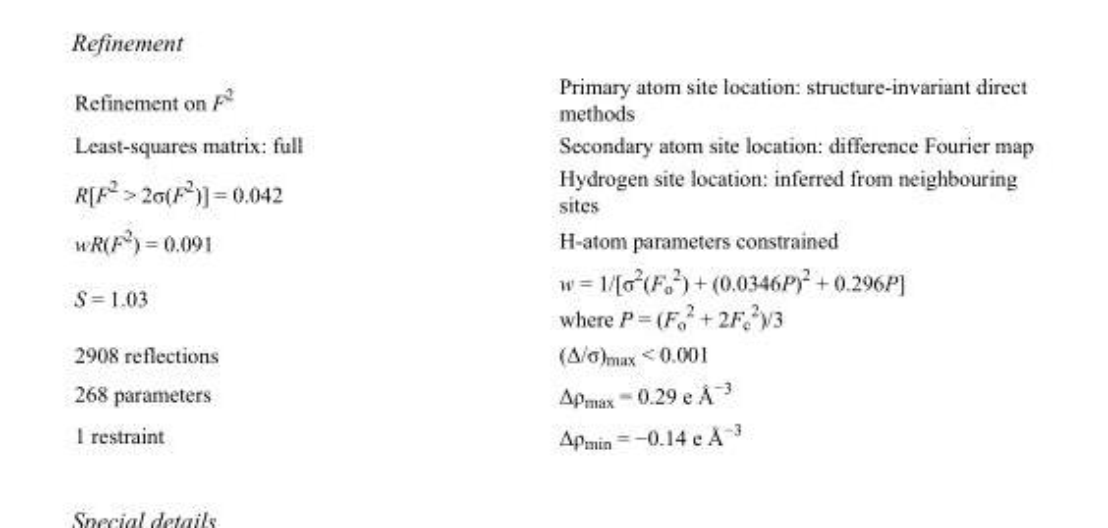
<table><tbody><tr><td>Refinement on F<sup>2</sup></td><td>Primary atom site location: structure-invariant direct methods</td></tr><tr><td>Least-squares matrix: full</td><td>Secondary atom site location: difference Fourier map</td></tr><tr><td>R[F<sup>2</sup> &gt; 2σ(F<sup>2</sup>)] = 0.042</td><td>Hydrogen site location: inferred from neighbouring sites</td></tr><tr><td>wR(F<sup>2</sup>) = 0.091</td><td>H-atom parameters constrained</td></tr><tr><td>S = 1.03</td><td>w = 1/[σ<sup>2</sup>(F<sub>o</sub> <sup>2</sup>) + (0.0346P)<sup>2</sup> + 0.296P] where P = (F<sub>o</sub> <sup>2</sup> + 2F<sub>c</sub> <sup>2</sup>)/3</td></tr><tr><td>2908 reflections</td><td>(Δ/σ)<sub>max</sub> &lt; 0.001</td></tr><tr><td>268 parameters</td><td>Δρ<sub>max</sub> = 0.29 e Å<sup>−3</sup></td></tr><tr><td>1 restraint</td><td>Δρ<sub>min</sub> = −0.14 e Å<sup>−3</sup></td></tr></tbody></table>